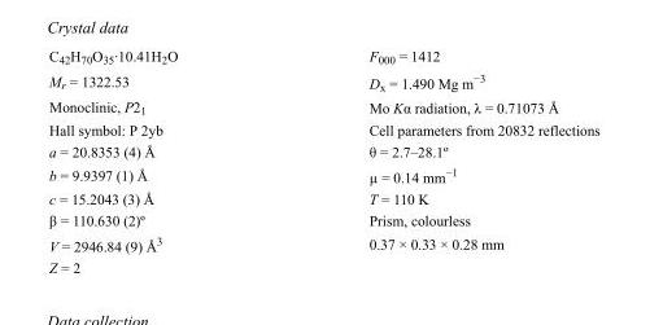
<table><tbody><tr><td>C<sub>42</sub>H<sub>70</sub>O<sub>35</sub>·10.41H<sub>2</sub>O</td><td>F000 = 1412</td></tr><tr><td>M<sub>r</sub> = 1322.53</td><td>D<sub>x</sub> = 1.490 Mg m<sup>−3</sup></td></tr><tr><td>Monoclinic, P2<sub>1</sub></td><td>Mo Kα radiation, λ = 0.71073 Å</td></tr><tr><td>Hall symbol: P 2yb</td><td>Cell parameters from 20832 reflections</td></tr><tr><td>a = 20.8353 (4) Å</td><td>θ = 2.7–28.1º</td></tr><tr><td>b = 9.9397 (1) Å</td><td>µ = 0.14 mm<sup>−1</sup></td></tr><tr><td>c = 15.2043 (3) Å</td><td>T = 110 K</td></tr><tr><td>β = 110.630 (2)º</td><td>Prism, colourless</td></tr><tr><td>V = 2946.84 (9) Å<sup>3</sup></td><td>0.37 × 0.33 × 0.28 mm</td></tr><tr><td>Z = 2</td><td></td></tr></tbody></table>